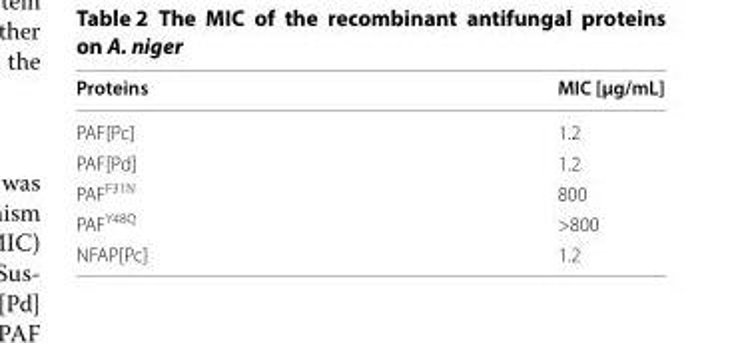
<table><thead><tr><td>Proteins</td><td>MIC [µg/mL]</td></tr></thead><tbody><tr><td>PAF[Pc]</td><td>1.2</td></tr><tr><td>PAF[Pd]</td><td>1.2</td></tr><tr><td>PAF<sup>F31N</sup></td><td>800</td></tr><tr><td>PAF<sup>Y48Q</sup></td><td>&gt;800</td></tr><tr><td>NFAP[Pc]</td><td>1.2</td></tr></tbody></table>